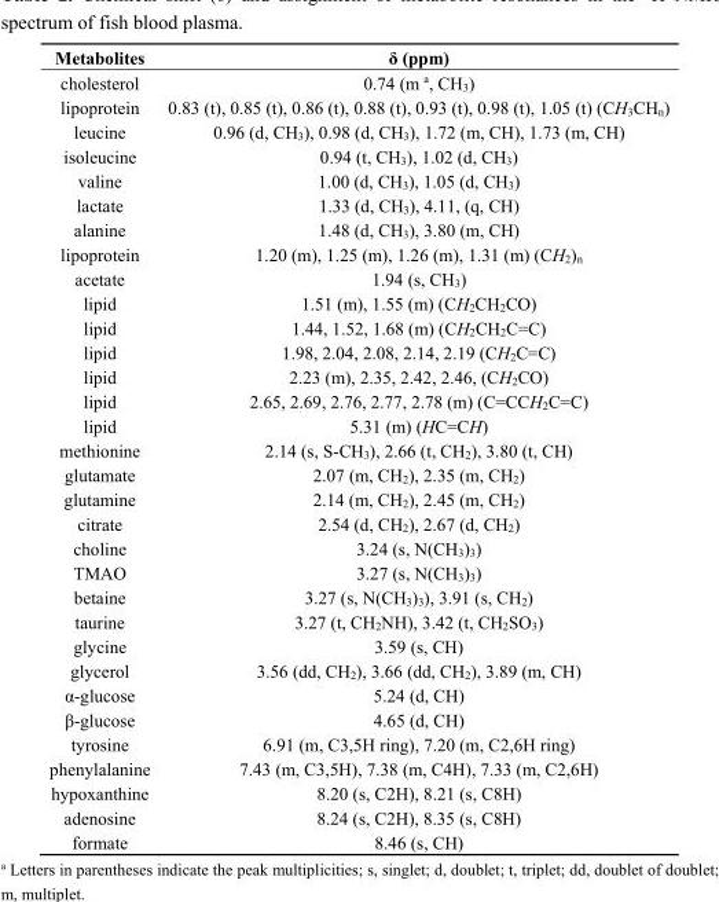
<table><thead><tr><td>Metabolites</td><td>δ (ppm)</td></tr></thead><tbody><tr><td>cholesterol</td><td>0.74 (m <sup>a</sup>, CH<sub>3</sub>)</td></tr><tr><td>lipoprotein</td><td>0.83 (t), 0.85 (t), 0.86 (t), 0.88 (t), 0.93 (t), 0.98 (t), 1.05 (t) (CH<sub>3</sub>CH<sub>n</sub>)</td></tr><tr><td>leucine</td><td>0.96 (d, CH<sub>3</sub>), 0.98 (d, CH<sub>3</sub>), 1.72 (m, CH), 1.73 (m, CH)</td></tr><tr><td>isoleucine</td><td>0.94 (t, CH<sub>3</sub>), 1.02 (d, CH<sub>3</sub>)</td></tr><tr><td>valine</td><td>1.00 (d, CH<sub>3</sub>), 1.05 (d, CH<sub>3</sub>)</td></tr><tr><td>lactate</td><td>1.33 (d, CH<sub>3</sub>), 4.11, (q, CH)</td></tr><tr><td>alanine</td><td>1.48 (d, CH<sub>3</sub>), 3.80 (m, CH)</td></tr><tr><td>lipoprotein</td><td>1.20 (m), 1.25 (m), 1.26 (m), 1.31 (m) (CH<sub>2</sub>)<sub>n</sub></td></tr><tr><td>acetate</td><td>1.94 (s, CH<sub>3</sub>)</td></tr><tr><td>lipid</td><td>1.51 (m), 1.55 (m) (CH<sub>2</sub>CH<sub>2</sub>CO)</td></tr><tr><td>lipid</td><td>1.44, 1.52, 1.68 (m) (CH<sub>2</sub>CH<sub>2</sub>C=C)</td></tr><tr><td>lipid</td><td>1.98, 2.04, 2.08, 2.14, 2.19 (CH<sub>2</sub>C=C)</td></tr><tr><td>lipid</td><td>2.23 (m), 2.35, 2.42, 2.46, (CH<sub>2</sub>CO)</td></tr><tr><td>lipid</td><td>2.65, 2.69, 2.76, 2.77, 2.78 (m) (C=CCH<sub>2</sub>C=C)</td></tr><tr><td>lipid</td><td>5.31 (m) (HC=CH)</td></tr><tr><td>methionine</td><td>2.14 (s, S-CH<sub>3</sub>), 2.66 (t, CH<sub>2</sub>), 3.80 (t, CH)</td></tr><tr><td>glutamate</td><td>2.07 (m, CH<sub>2</sub>), 2.35 (m, CH<sub>2</sub>)</td></tr><tr><td>glutamine</td><td>2.14 (m, CH<sub>2</sub>), 2.45 (m, CH<sub>2</sub>)</td></tr><tr><td>citrate</td><td>2.54 (d, CH<sub>2</sub>), 2.67 (d, CH<sub>2</sub>)</td></tr><tr><td>choline</td><td>3.24 (s, N(CH<sub>3</sub>)<sub>3</sub>)</td></tr><tr><td>TMAO</td><td>3.27 (s, N(CH<sub>3</sub>)<sub>3</sub>)</td></tr><tr><td>betaine</td><td>3.27 (s, N(CH<sub>3</sub>)<sub>3</sub>), 3.91 (s, CH<sub>2</sub>)</td></tr><tr><td>taurine</td><td>3.27 (t, CH<sub>2</sub>NH), 3.42 (t, CH<sub>2</sub>SO<sub>3</sub>)</td></tr><tr><td>glycine</td><td>3.59 (s, CH)</td></tr><tr><td>glycerol</td><td>3.56 (dd, CH<sub>2</sub>), 3.66 (dd, CH<sub>2</sub>), 3.89 (m, CH)</td></tr><tr><td>α-glucose</td><td>5.24 (d, CH)</td></tr><tr><td>β-glucose</td><td>4.65 (d, CH)</td></tr><tr><td>tyrosine</td><td>6.91 (m, C3,5H ring), 7.20 (m, C2,6H ring)</td></tr><tr><td>phenylalanine</td><td>7.43 (m, C3,5H), 7.38 (m, C4H), 7.33 (m, C2,6H)</td></tr><tr><td>hypoxanthine</td><td>8.20 (s, C2H), 8.21 (s, C8H)</td></tr><tr><td>adenosine</td><td>8.24 (s, C2H), 8.35 (s, C8H)</td></tr><tr><td>formate</td><td>8.46 (s, CH)</td></tr></tbody></table>